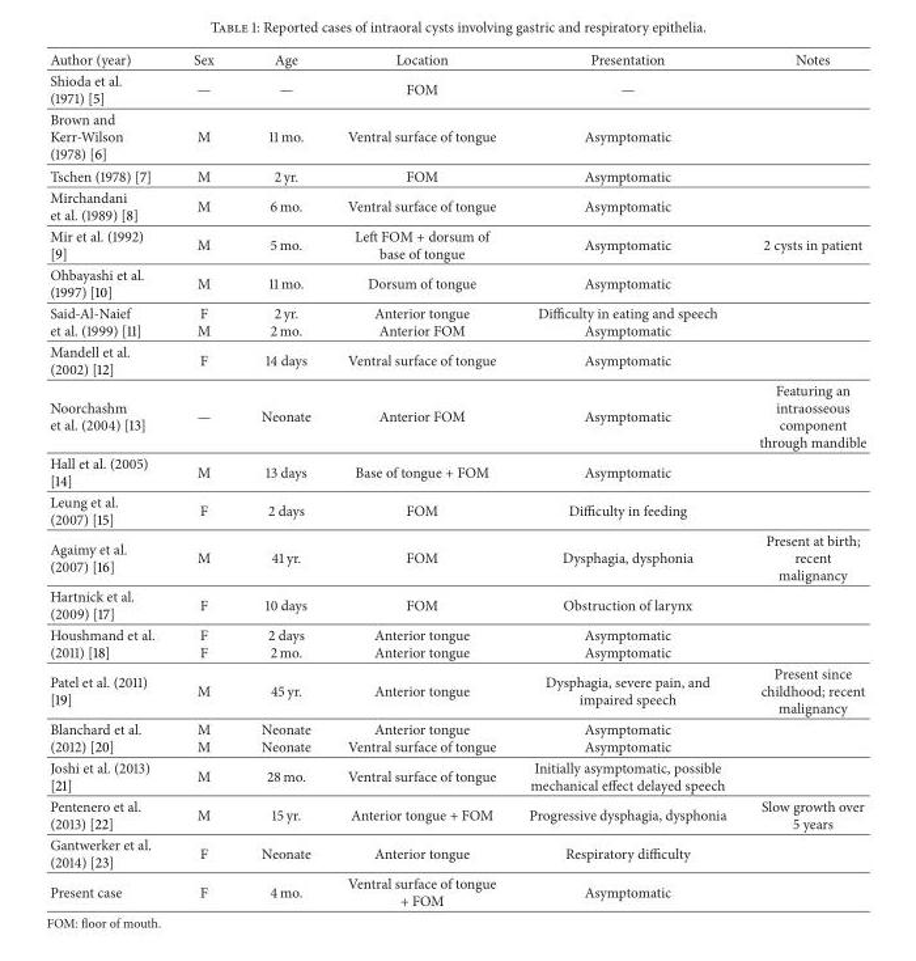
<table><thead><tr><td>Author (year)</td><td>Sex</td><td>Age</td><td>Location</td><td>Presentation</td><td>Notes</td></tr></thead><tbody><tr><td>Shioda et al. (1971) [5]</td><td>—</td><td>—</td><td>FOM</td><td>—</td><td></td></tr><tr><td>Brown and Kerr-Wilson (1978) [6]</td><td>M</td><td>11 mo.</td><td>Ventral surface of tongue</td><td>Asymptomatic</td><td></td></tr><tr><td>Tschen (1978) [7]</td><td>M</td><td>2 yr.</td><td>FOM</td><td>Asymptomatic</td><td></td></tr><tr><td>Mirchandani et al. (1989) [8]</td><td>M</td><td>6 mo.</td><td>Ventral surface of tongue</td><td>Asymptomatic</td><td></td></tr><tr><td>Mir et al. (1992) [9]</td><td>M</td><td>5 mo.</td><td>Left FOM + dorsum of base of tongue</td><td>Asymptomatic</td><td>2 cysts in patient</td></tr><tr><td>Ohbayashi et al. (1997) [10]</td><td>M</td><td>11 mo.</td><td>Dorsum of tongue</td><td>Asymptomatic</td><td></td></tr><tr><td>Said-Al-Naief et al. (1999) [11]</td><td>F M</td><td>2 yr. 2 mo.</td><td>Anterior tongue Anterior FOM</td><td>Difficulty in eating and speech Asymptomatic</td><td></td></tr><tr><td>Mandell et al. (2002) [12]</td><td>F</td><td>14 days</td><td>Ventral surface of tongue</td><td>Asymptomatic</td><td></td></tr><tr><td>Noorchashm et al. (2004) [13]</td><td>—</td><td>Neonate</td><td>Anterior FOM</td><td>Asymptomatic</td><td>Featuring an intraosseous component through mandible</td></tr><tr><td>Hall et al. (2005) [14]</td><td>M</td><td>13 days</td><td>Base of tongue + FOM</td><td>Asymptomatic</td><td></td></tr><tr><td>Leung et al. (2007) [15]</td><td>F</td><td>2 days</td><td>FOM</td><td>Difficulty in feeding</td><td></td></tr><tr><td>Agaimy et al. (2007) [16]</td><td>M</td><td>41 yr.</td><td>FOM</td><td>Dysphagia, dysphonia</td><td>Present at birth; recent malignancy</td></tr><tr><td>Hartnick et al. (2009) [17]</td><td>F</td><td>10 days</td><td>FOM</td><td>Obstruction of larynx</td><td></td></tr><tr><td>Houshmand et al. (2011) [18]</td><td>F F</td><td>2 days 2 mo.</td><td>Anterior tongue Anterior tongue</td><td>Asymptomatic Asymptomatic</td><td></td></tr><tr><td>Patel et al. (2011) [19]</td><td>M</td><td>45 yr.</td><td>Anterior tongue</td><td>Dysphagia, severe pain, and impaired speech</td><td>Present since childhood; recent malignancy</td></tr><tr><td>Blanchard et al. (2012) [20]</td><td>M M</td><td>Neonate Neonate</td><td>Anterior tongue Ventral surface of tongue</td><td>Asymptomatic Asymptomatic</td><td></td></tr><tr><td>Joshi et al. (2013) [21]</td><td>M</td><td>28 mo.</td><td>Ventral surface of tongue</td><td>Initially asymptomatic, possible mechanical effect delayed speech</td><td></td></tr><tr><td>Pentenero et al. (2013) [22]</td><td>M</td><td>15 yr.</td><td>Anterior tongue + FOM</td><td>Progressive dysphagia, dysphonia</td><td>Slow growth over 5 years</td></tr><tr><td>Gantwerker et al. (2014) [23]</td><td>F</td><td>Neonate</td><td>Anterior tongue</td><td>Respiratory difficulty</td><td></td></tr><tr><td>Present case</td><td>F</td><td>4 mo.</td><td>Ventral surface of tongue + FOM</td><td>Asymptomatic</td><td></td></tr></tbody></table>